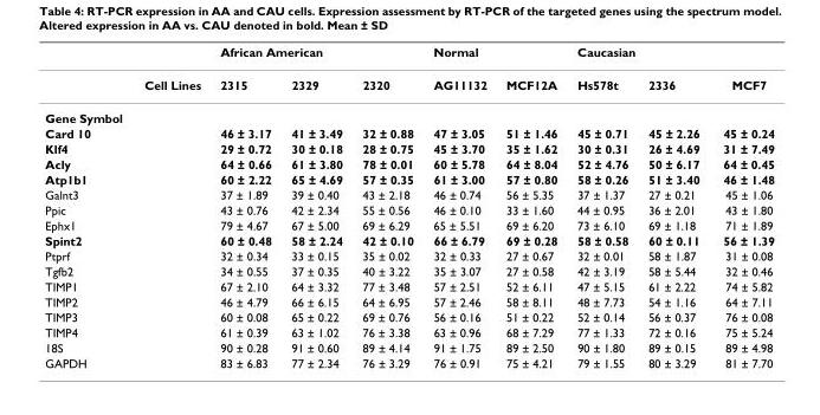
<table><thead><tr><td rowspan="2"></td><td rowspan="2">Cell Lines</td><td colspan="3">African American</td><td colspan="2">Normal</td><td colspan="3">Caucasian</td></tr><tr><td>2315</td><td>2329</td><td>2320</td><td>AG11132</td><td>MCF12A</td><td>Hs578t</td><td>2336</td><td>MCF7</td></tr></thead><tbody><tr><td colspan="10">Gene Symbol</td></tr><tr><td>Card 10</td><td></td><td>46 ± 3.17</td><td>41 ± 3.49</td><td>32 ± 0.88</td><td>47 ± 3.05</td><td>51 ± 1.46</td><td>45 ± 0.71</td><td>45 ± 2.26</td><td>45 ± 0.24</td></tr><tr><td>Klf4</td><td></td><td>29 ± 0.72</td><td>30 ± 0.18</td><td>28 ± 0.75</td><td>45 ± 3.70</td><td>35 ± 1.62</td><td>30 ± 0.31</td><td>26 ± 4.69</td><td>31 ± 7.49</td></tr><tr><td>Acly</td><td></td><td>64 ± 0.66</td><td>61 ± 3.80</td><td>78 ± 0.01</td><td>60 ± 5.78</td><td>64 ± 8.04</td><td>52 ± 4.76</td><td>50 ± 6.17</td><td>64 ± 0.45</td></tr><tr><td>Atp1b1</td><td></td><td>60 ± 2.22</td><td>65 ± 4.69</td><td>57 ± 0.35</td><td>61 ± 3.00</td><td>57 ± 0.80</td><td>58 ± 0.26</td><td>51 ± 3.40</td><td>46 ± 1.48</td></tr><tr><td>Galnt3</td><td></td><td>37 ± 1.89</td><td>39 ± 0.40</td><td>43 ± 2.18</td><td>46 ± 0.74</td><td>56 ± 5.35</td><td>37 ± 1.37</td><td>27 ± 0.21</td><td>45 ± 1.06</td></tr><tr><td>Ppic</td><td></td><td>43 ± 0.76</td><td>42 ± 2.34</td><td>55 ± 0.56</td><td>46 ± 0.10</td><td>33 ± 1.60</td><td>44 ± 0.95</td><td>36 ± 2.01</td><td>43 ± 1.80</td></tr><tr><td>Ephx1</td><td></td><td>79 ± 4.67</td><td>67 ± 5.00</td><td>69 ± 6.29</td><td>65 ± 5.51</td><td>69 ± 6.20</td><td>73 ± 6.10</td><td>69 ± 1.18</td><td>71 ± 1.89</td></tr><tr><td>Spint2</td><td></td><td>60 ± 0.48</td><td>58 ± 2.24</td><td>42 ± 0.10</td><td>66 ± 6.79</td><td>69 ± 0.28</td><td>58 ± 0.58</td><td>60 ± 0.11</td><td>56 ± 1.39</td></tr><tr><td>Ptprf</td><td></td><td>32 ± 0.34</td><td>33 ± 0.15</td><td>35 ± 0.02</td><td>32 ± 0.33</td><td>27 ± 0.67</td><td>32 ± 0.01</td><td>58 ± 1.87</td><td>31 ± 0.08</td></tr><tr><td>Tgfb2</td><td></td><td>34 ± 0.55</td><td>37 ± 0.35</td><td>40 ± 3.22</td><td>35 ± 3.07</td><td>27 ± 0.58</td><td>42 ± 3.19</td><td>58 ± 5.44</td><td>32 ± 0.46</td></tr><tr><td>TIMP1</td><td></td><td>67 ± 2.10</td><td>64 ± 3.32</td><td>77 ± 3.48</td><td>57 ± 2.51</td><td>52 ± 6.11</td><td>47 ± 5.15</td><td>61 ± 2.22</td><td>74 ± 5.82</td></tr><tr><td>TIMP2</td><td></td><td>46 ± 4.79</td><td>66 ± 6.15</td><td>64 ± 6.95</td><td>57 ± 2.46</td><td>58 ± 8.11</td><td>48 ± 7.73</td><td>54 ± 1.16</td><td>64 ± 7.11</td></tr><tr><td>TIMP3</td><td></td><td>60 ± 0.08</td><td>65 ± 0.22</td><td>69 ± 0.76</td><td>56 ± 0.16</td><td>51 ± 0.22</td><td>52 ± 0.14</td><td>56 ± 0.37</td><td>76 ± 0.08</td></tr><tr><td>TIMP4</td><td></td><td>61 ± 0.39</td><td>63 ± 1.02</td><td>76 ± 3.38</td><td>63 ± 0.96</td><td>68 ± 7.29</td><td>77 ± 1.33</td><td>72 ± 0.16</td><td>75 ± 5.24</td></tr><tr><td>18S</td><td></td><td>90 ± 0.28</td><td>91 ± 0.60</td><td>89 ± 4.14</td><td>91 ± 1.75</td><td>89 ± 2.50</td><td>90 ± 1.80</td><td>89 ± 0.15</td><td>89 ± 4.98</td></tr><tr><td>GAPDH</td><td></td><td>83 ± 6.83</td><td>77 ± 2.34</td><td>76 ± 3.29</td><td>76 ± 0.91</td><td>75 ± 4.21</td><td>79 ± 1.55</td><td>80 ± 3.29</td><td>81 ± 7.70</td></tr></tbody></table>